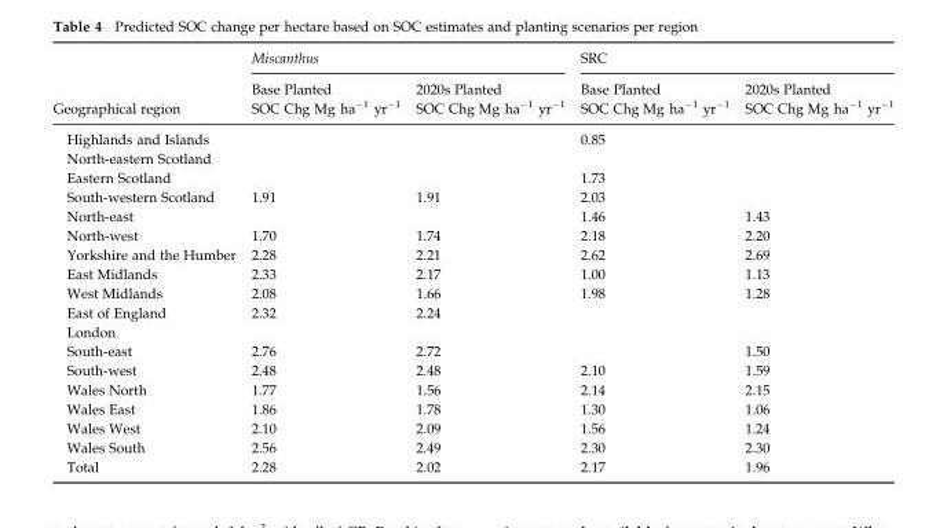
<table><thead><tr><td rowspan="3">Geographical region</td><td colspan="2">Miscanthus</td><td colspan="2">SRC</td></tr><tr><td rowspan="2">Base Planted SOC Chg Mg ha<sup>−1</sup> yr<sup>−1</sup></td><td rowspan="2">2020s Planted SOC Chg Mg ha<sup>−1</sup> yr<sup>−1</sup></td><td rowspan="2">Base Planted SOC Chg Mg ha<sup>−1</sup> yr<sup>−1</sup></td><td rowspan="2">2020s Planted SOC Chg Mg ha<sup>−1</sup> yr<sup>−1</sup></td></tr><tr></tr></thead><tbody><tr><td>Highlands and Islands</td><td></td><td></td><td>0.85</td><td></td></tr><tr><td colspan="5">North-eastern Scotland</td></tr><tr><td>Eastern Scotland</td><td></td><td></td><td>1.73</td><td></td></tr><tr><td>South-western Scotland</td><td>1.91</td><td>1.91</td><td>2.03</td><td></td></tr><tr><td>North-east</td><td></td><td></td><td>1.46</td><td>1.43</td></tr><tr><td>North-west</td><td>1.70</td><td>1.74</td><td>2.18</td><td>2.20</td></tr><tr><td>Yorkshire and the Humber</td><td>2.28</td><td>2.21</td><td>2.62</td><td>2.69</td></tr><tr><td>East Midlands</td><td>2.33</td><td>2.17</td><td>1.00</td><td>1.13</td></tr><tr><td>West Midlands</td><td>2.08</td><td>1.66</td><td>1.98</td><td>1.28</td></tr><tr><td>East of England</td><td>2.32</td><td>2.24</td><td></td><td></td></tr><tr><td colspan="5">London</td></tr><tr><td>South-east</td><td>2.76</td><td>2.72</td><td></td><td>1.50</td></tr><tr><td>South-west</td><td>2.48</td><td>2.48</td><td>2.10</td><td>1.59</td></tr><tr><td>Wales North</td><td>1.77</td><td>1.56</td><td>2.14</td><td>2.15</td></tr><tr><td>Wales East</td><td>1.86</td><td>1.78</td><td>1.30</td><td>1.06</td></tr><tr><td>Wales West</td><td>2.10</td><td>2.09</td><td>1.56</td><td>1.24</td></tr><tr><td>Wales South</td><td>2.56</td><td>2.49</td><td>2.30</td><td>2.30</td></tr><tr><td>Total</td><td>2.28</td><td>2.02</td><td>2.17</td><td>1.96</td></tr></tbody></table>